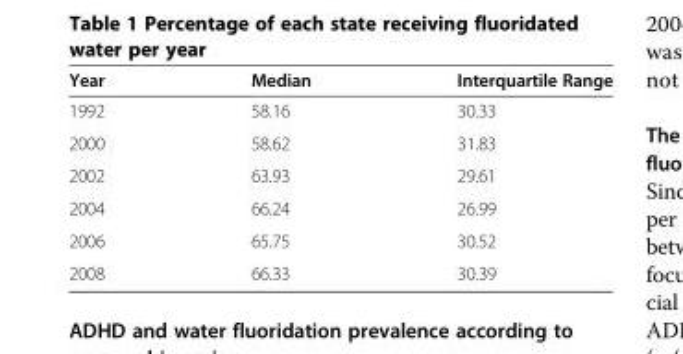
<table><thead><tr><td>Year</td><td>Median</td><td>Interquartile Range</td></tr></thead><tbody><tr><td>1992</td><td>58.16</td><td>30.33</td></tr><tr><td>2000</td><td>58.62</td><td>31.83</td></tr><tr><td>2002</td><td>63.93</td><td>29.61</td></tr><tr><td>2004</td><td>66.24</td><td>26.99</td></tr><tr><td>2006</td><td>65.75</td><td>30.52</td></tr><tr><td>2008</td><td>66.33</td><td>30.39</td></tr></tbody></table>